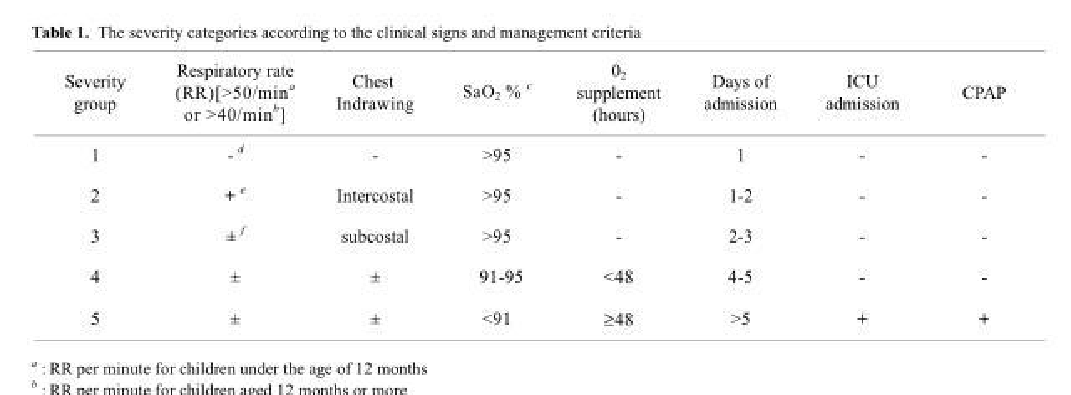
<table><thead><tr><td>Severity group</td><td>Respiratory rate (RR)[&gt;50/min<sup>a</sup> or &gt;40/min<sup>b</sup>]</td><td>Chest Indrawing</td><td>SaO<sub>2</sub> % <sup>c</sup></td><td>0<sub>2</sub> supplement (hours)</td><td>Days of admission</td><td>ICU admission</td><td>CPAP</td></tr></thead><tbody><tr><td>1</td><td>- <sup>d</sup></td><td>-</td><td>&gt;95</td><td>-</td><td>1</td><td>-</td><td>-</td></tr><tr><td>2</td><td>+ <sup>e</sup></td><td>Intercostal</td><td>&gt;95</td><td>-</td><td>1-2</td><td>-</td><td>-</td></tr><tr><td>3</td><td>± <sup>f</sup></td><td>subcostal</td><td>&gt;95</td><td>-</td><td>2-3</td><td>-</td><td>-</td></tr><tr><td>4</td><td>±</td><td>±</td><td>91-95</td><td>&lt;48</td><td>4-5</td><td>-</td><td>-</td></tr><tr><td>5</td><td>±</td><td>±</td><td>&lt;91</td><td>≥48</td><td>&gt;5</td><td>+</td><td>+</td></tr></tbody></table>